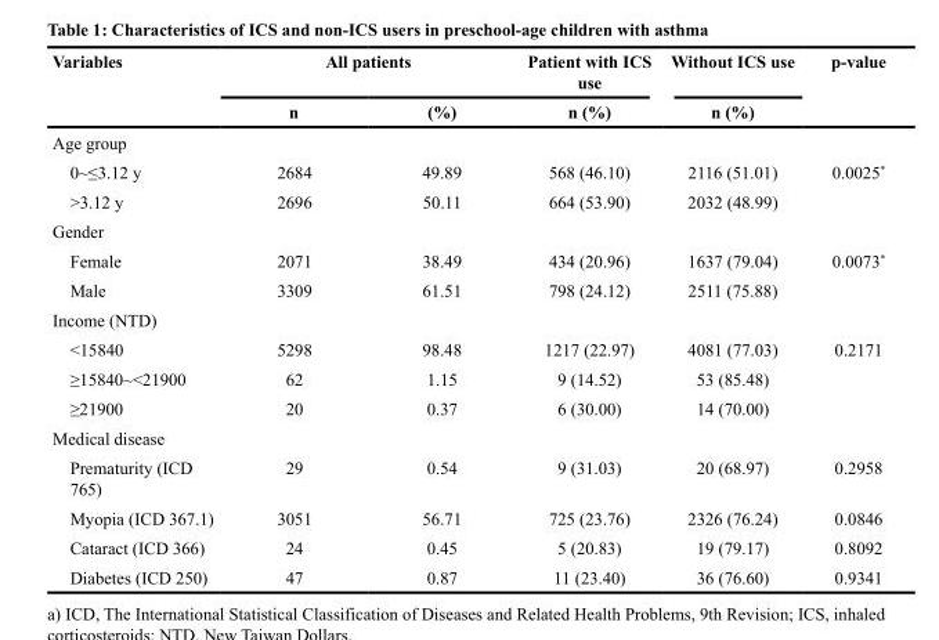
<table><thead><tr><td rowspan="2">Variables</td><td colspan="2">All patients</td><td rowspan="2">Patient with ICS use n (%)</td><td rowspan="2">Without ICS use n (%)</td><td rowspan="2">p-value</td></tr><tr><td>n</td><td>(%)</td></tr></thead><tbody><tr><td colspan="6">Age group</td></tr><tr><td>0~≤3.12 y</td><td>2684</td><td>49.89</td><td>568 (46.10)</td><td>2116 (51.01)</td><td>0.0025*</td></tr><tr><td>&gt;3.12 y</td><td>2696</td><td>50.11</td><td>664 (53.90)</td><td>2032 (48.99)</td><td></td></tr><tr><td colspan="6">Gender</td></tr><tr><td>Female</td><td>2071</td><td>38.49</td><td>434 (20.96)</td><td>1637 (79.04)</td><td>0.0073*</td></tr><tr><td>Male</td><td>3309</td><td>61.51</td><td>798 (24.12)</td><td>2511 (75.88)</td><td></td></tr><tr><td colspan="6">Income (NTD)</td></tr><tr><td>&lt;15840</td><td>5298</td><td>98.48</td><td>1217 (22.97)</td><td>4081 (77.03)</td><td>0.2171</td></tr><tr><td>≥15840~&lt;21900</td><td>62</td><td>1.15</td><td>9 (14.52)</td><td>53 (85.48)</td><td></td></tr><tr><td>≥21900</td><td>20</td><td>0.37</td><td>6 (30.00)</td><td>14 (70.00)</td><td></td></tr><tr><td colspan="6">Medical disease</td></tr><tr><td>Prematurity (ICD 765)</td><td>29</td><td>0.54</td><td>9 (31.03)</td><td>20 (68.97)</td><td>0.2958</td></tr><tr><td>Myopia (ICD 367.1)</td><td>3051</td><td>56.71</td><td>725 (23.76)</td><td>2326 (76.24)</td><td>0.0846</td></tr><tr><td>Cataract (ICD 366)</td><td>24</td><td>0.45</td><td>5 (20.83)</td><td>19 (79.17)</td><td>0.8092</td></tr><tr><td>Diabetes (ICD 250)</td><td>47</td><td>0.87</td><td>11 (23.40)</td><td>36 (76.60)</td><td>0.9341</td></tr></tbody></table>